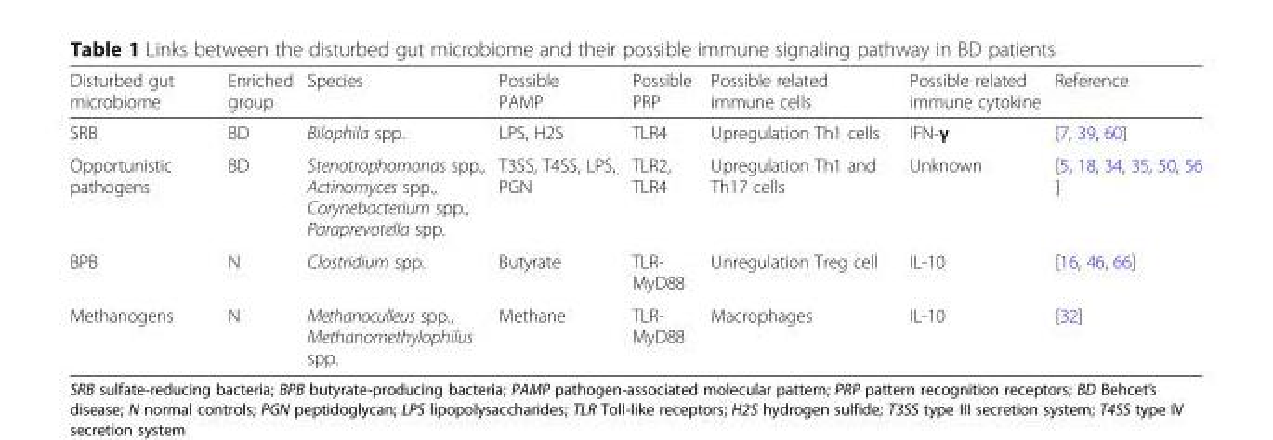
<table><thead><tr><td>Disturbed gut microbiome</td><td>Enriched group</td><td>Species</td><td>Possible PAMP</td><td>Possible PRP</td><td>Possible related immune cells</td><td>Possible related immune cytokine</td><td>Reference</td></tr></thead><tbody><tr><td>SRB</td><td>BD</td><td>Bilophila spp.</td><td>LPS, H2S</td><td>TLR4</td><td>Upregulation Th1 cells</td><td>IFN-γ</td><td>[7, 39, 60]</td></tr><tr><td>Opportunistic pathogens</td><td>BD</td><td>Stenotrophomonas spp., Actinomyces spp., Corynebacterium spp., Paraprevotella spp.</td><td>T3SS, T4SS, LPS, PGN</td><td>TLR2, TLR4</td><td>Upregulation Th1 and Th17 cells</td><td>Unknown</td><td>[5, 18, 34, 35, 50, 56 ]</td></tr><tr><td>BPB</td><td>N</td><td>Clostridium spp.</td><td>Butyrate</td><td>TLR- MyD88</td><td>Unregulation Treg cell</td><td>IL-10</td><td>[16, 46, 66]</td></tr><tr><td>Methanogens</td><td>N</td><td>Methanoculleus spp., Methanomethylophilus spp.</td><td>Methane</td><td>TLR- MyD88</td><td>Macrophages</td><td>IL-10</td><td>[32]</td></tr></tbody></table>